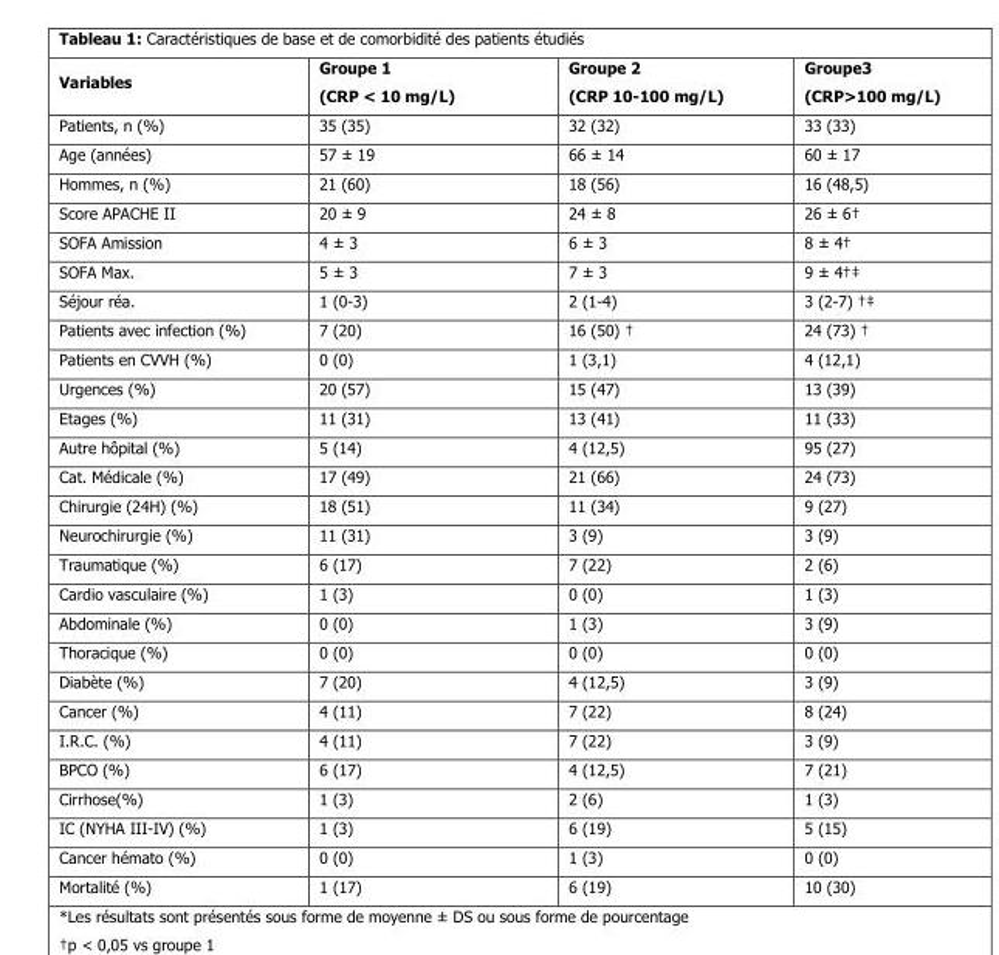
<table><thead><tr><td>Variables</td><td>Groupe 1 (CRP &lt; 10 mg/L)</td><td>Groupe 2 (CRP 10-100 mg/L)</td><td>Groupe3 (CRP&gt;100 mg/L)</td></tr></thead><tbody><tr><td>Patients, n (%)</td><td>35 (35)</td><td>32 (32)</td><td>33 (33)</td></tr><tr><td>Age (années)</td><td>57 ± 19</td><td>66 ± 14</td><td>60 ± 17</td></tr><tr><td>Hommes, n (%)</td><td>21 (60)</td><td>18 (56)</td><td>16 (48,5)</td></tr><tr><td>Score APACHE II</td><td>20 ± 9</td><td>24 ± 8</td><td>26 ± 6†</td></tr><tr><td>SOFA Amission</td><td>4 ± 3</td><td>6 ± 3</td><td>8 ± 4†</td></tr><tr><td>SOFA Max.</td><td>5 ± 3</td><td>7 ± 3</td><td>9 ± 4†‡</td></tr><tr><td>Séjour réa.</td><td>1 (0-3)</td><td>2 (1-4)</td><td>3 (2-7) †‡</td></tr><tr><td>Patients avec infection (%)</td><td>7 (20)</td><td>16 (50) †</td><td>24 (73) †</td></tr><tr><td>Patients en CVVH (%)</td><td>0 (0)</td><td>1 (3,1)</td><td>4 (12,1)</td></tr><tr><td>Urgences (%)</td><td>20 (57)</td><td>15 (47)</td><td>13 (39)</td></tr><tr><td>Etages (%)</td><td>11 (31)</td><td>13 (41)</td><td>11 (33)</td></tr><tr><td>Autre hôpital (%)</td><td>5 (14)</td><td>4 (12,5)</td><td>95 (27)</td></tr><tr><td>Cat. Médicale (%)</td><td>17 (49)</td><td>21 (66)</td><td>24 (73)</td></tr><tr><td>Chirurgie (24H) (%)</td><td>18 (51)</td><td>11 (34)</td><td>9 (27)</td></tr><tr><td>Neurochirurgie (%)</td><td>11 (31)</td><td>3 (9)</td><td>3 (9)</td></tr><tr><td>Traumatique (%)</td><td>6 (17)</td><td>7 (22)</td><td>2 (6)</td></tr><tr><td>Cardio vasculaire (%)</td><td>1 (3)</td><td>0 (0)</td><td>1 (3)</td></tr><tr><td>Abdominale (%)</td><td>0 (0)</td><td>1 (3)</td><td>3 (9)</td></tr><tr><td>Thoracique (%)</td><td>0 (0)</td><td>0 (0)</td><td>0 (0)</td></tr><tr><td>Diabète (%)</td><td>7 (20)</td><td>4 (12,5)</td><td>3 (9)</td></tr><tr><td>Cancer (%)</td><td>4 (11)</td><td>7 (22)</td><td>8 (24)</td></tr><tr><td>I.R.C. (%)</td><td>4 (11)</td><td>7 (22)</td><td>3 (9)</td></tr><tr><td>BPCO (%)</td><td>6 (17)</td><td>4 (12,5)</td><td>7 (21)</td></tr><tr><td>Cirrhose(%)</td><td>1 (3)</td><td>2 (6)</td><td>1 (3)</td></tr><tr><td>IC (NYHA III-IV) (%)</td><td>1 (3)</td><td>6 (19)</td><td>5 (15)</td></tr><tr><td>Cancer hémato (%)</td><td>0 (0)</td><td>1 (3)</td><td>0 (0)</td></tr><tr><td>Mortalité (%)</td><td>1 (17)</td><td>6 (19)</td><td>10 (30)</td></tr></tbody></table>